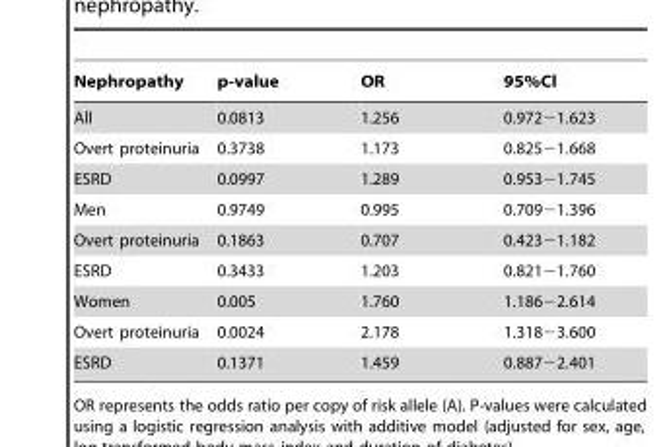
<table><thead><tr><td>Nephropathy</td><td>p-value</td><td>OR</td><td>95%Cl</td></tr></thead><tbody><tr><td>All</td><td>0.0813</td><td>1.256</td><td>0.972−1.623</td></tr><tr><td>Overt proteinuria</td><td>0.3738</td><td>1.173</td><td>0.825−1.668</td></tr><tr><td>ESRD</td><td>0.0997</td><td>1.289</td><td>0.953−1.745</td></tr><tr><td>Men</td><td>0.9749</td><td>0.995</td><td>0.709−1.396</td></tr><tr><td>Overt proteinuria</td><td>0.1863</td><td>0.707</td><td>0.423−1.182</td></tr><tr><td>ESRD</td><td>0.3433</td><td>1.203</td><td>0.821−1.760</td></tr><tr><td>Women</td><td>0.005</td><td>1.760</td><td>1.186−2.614</td></tr><tr><td>Overt proteinuria</td><td>0.0024</td><td>2.178</td><td>1.318−3.600</td></tr><tr><td>ESRD</td><td>0.1371</td><td>1.459</td><td>0.887−2.401</td></tr></tbody></table>